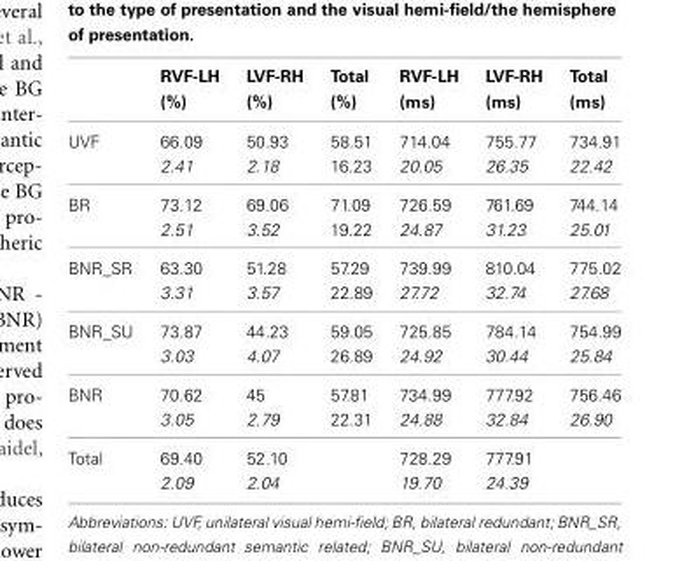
<table><thead><tr><td rowspan="2"></td><td rowspan="2">RVF-LH (%)</td><td rowspan="2">LVF-RH (%)</td><td rowspan="2">Total (%)</td><td rowspan="2">RVF-LH (ms)</td><td rowspan="2">LVF-RH (ms)</td><td rowspan="2">Total (ms)</td></tr><tr></tr></thead><tbody><tr><td rowspan="2">UVF</td><td>66.09</td><td>50.93</td><td>58.51</td><td>714.04</td><td>755.77</td><td>734.91</td></tr><tr><td>2.41</td><td>2.18</td><td>16.23</td><td>20.05</td><td>26.35</td><td>22.42</td></tr><tr><td rowspan="2">BR</td><td>73.12</td><td>69.06</td><td>71.09</td><td>726.59</td><td>761.69</td><td>744.14</td></tr><tr><td>2.51</td><td>3.52</td><td>19.22</td><td>24.87</td><td>31.23</td><td>25.01</td></tr><tr><td rowspan="2">BNR_SR</td><td>63.30</td><td>51.28</td><td>57.29</td><td>739.99</td><td>810.04</td><td>775.02</td></tr><tr><td>3.31</td><td>3.57</td><td>22.89</td><td>27.72</td><td>32.74</td><td>27.68</td></tr><tr><td rowspan="2">BNR_SU</td><td>73.87</td><td>44.23</td><td>59.05</td><td>725.85</td><td>784.14</td><td>754.99</td></tr><tr><td>3.03</td><td>4.07</td><td>26.89</td><td>24.92</td><td>30.44</td><td>25.84</td></tr><tr><td rowspan="2">BNR</td><td>70.62</td><td>45</td><td>57.81</td><td>734.99</td><td>777.92</td><td>756.46</td></tr><tr><td>3.05</td><td>2.79</td><td>22.31</td><td>24.88</td><td>32.84</td><td>26.90</td></tr><tr><td rowspan="2">Total</td><td>69.40</td><td>52.10</td><td></td><td>728.29</td><td>777.91</td><td></td></tr><tr><td>2.09</td><td>2.04</td><td></td><td>19.70</td><td>24.39</td><td></td></tr></tbody></table>